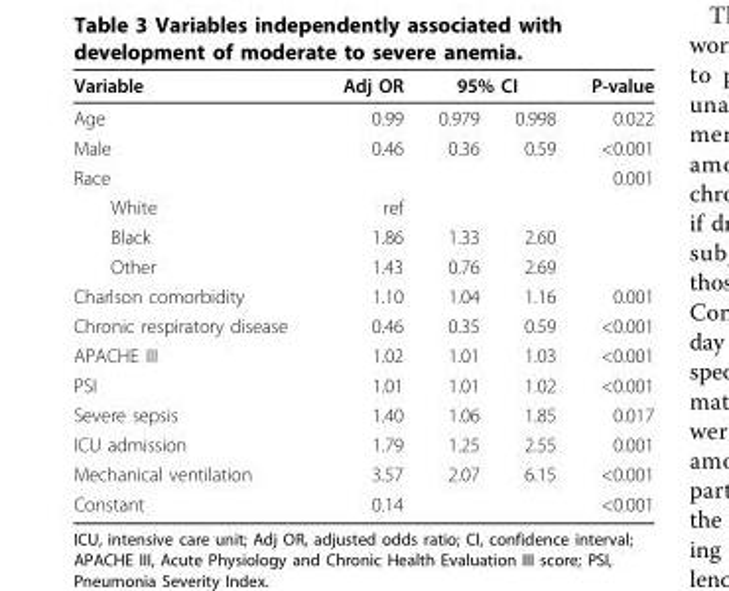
<table><thead><tr><td rowspan="2">Variable Age</td><td rowspan="2">Adj OR 0.99</td><td colspan="2">95% CI</td><td rowspan="2">P-value 0.022</td></tr><tr><td>0.979</td><td>0.998</td></tr></thead><tbody><tr><td>Male</td><td>0.46</td><td>0.36</td><td>0.59</td><td>&lt;0.001</td></tr><tr><td>Race</td><td></td><td></td><td></td><td>0.001</td></tr><tr><td>White</td><td>ref</td><td></td><td></td><td></td></tr><tr><td>Black</td><td>1.86</td><td>1.33</td><td>2.60</td><td></td></tr><tr><td>Other</td><td>1.43</td><td>0.76</td><td>2.69</td><td></td></tr><tr><td>Charlson comorbidity</td><td>1.10</td><td>1.04</td><td>1.16</td><td>0.001</td></tr><tr><td>Chronic respiratory disease</td><td>0.46</td><td>0.35</td><td>0.59</td><td>&lt;0.001</td></tr><tr><td>APACHE III</td><td>1.02</td><td>1.01</td><td>1.03</td><td>&lt;0.001</td></tr><tr><td>PSI</td><td>1.01</td><td>1.01</td><td>1.02</td><td>&lt;0.001</td></tr><tr><td>Severe sepsis</td><td>1.40</td><td>1.06</td><td>1.85</td><td>0.017</td></tr><tr><td>ICU admission</td><td>1.79</td><td>1.25</td><td>2.55</td><td>0.001</td></tr><tr><td>Mechanical ventilation</td><td>3.57</td><td>2.07</td><td>6.15</td><td>&lt;0.001</td></tr><tr><td>Constant</td><td>0.14</td><td></td><td></td><td>&lt;0.001</td></tr></tbody></table>